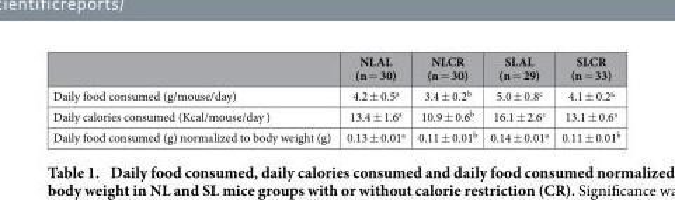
<table><thead><tr><td></td><td>NLAL (n = 30)</td><td>NLCR (n = 30)</td><td>SLAL (n = 29)</td><td>SLCR (n = 33)</td></tr></thead><tbody><tr><td>Daily food consumed (g/mouse/day)</td><td>4.2 ± 0.5<sup>a</sup></td><td>3.4 ± 0.2<sup>b</sup></td><td>5.0 ± 0.8<sup>c</sup></td><td>4.1 ± 0.2<sup>a</sup></td></tr><tr><td>Daily calories consumed (Kcal/mouse/day )</td><td>13.4 ± 1.6<sup>a</sup></td><td>10.9 ± 0.6<sup>b</sup></td><td>16.1 ± 2.6<sup>c</sup></td><td>13.1 ± 0.6<sup>a</sup></td></tr><tr><td>Daily food consumed (g) normalized to body weight (g)</td><td>0.13 ± 0.01<sup>a</sup></td><td>0.11 ± 0.01<sup>b</sup></td><td>0.14 ± 0.01<sup>a</sup></td><td>0.11 ± 0.01<sup>b</sup></td></tr></tbody></table>